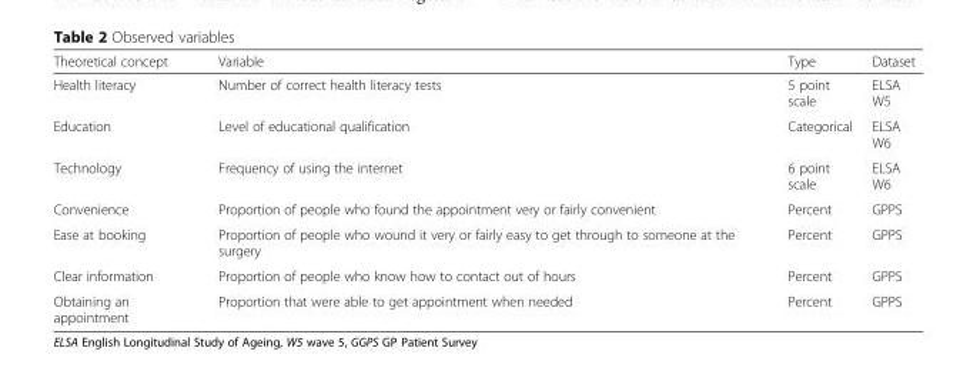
<table><thead><tr><td>Theoretical concept</td><td>Variable</td><td>Type</td><td>Dataset</td></tr></thead><tbody><tr><td>Health literacy</td><td>Number of correct health literacy tests</td><td>5 point scale</td><td>ELSA W5</td></tr><tr><td>Education</td><td>Level of educational qualification</td><td>Categorical</td><td>ELSA W6</td></tr><tr><td>Technology</td><td>Frequency of using the internet</td><td>6 point scale</td><td>ELSA W6</td></tr><tr><td>Convenience</td><td>Proportion of people who found the appointment very or fairly convenient</td><td>Percent</td><td>GPPS</td></tr><tr><td>Ease at booking</td><td>Proportion of people who wound it very or fairly easy to get through to someone at the surgery</td><td>Percent</td><td>GPPS</td></tr><tr><td>Clear information</td><td>Proportion of people who know how to contact out of hours</td><td>Percent</td><td>GPPS</td></tr><tr><td>Obtaining an appointment</td><td>Proportion that were able to get appointment when needed</td><td>Percent</td><td>GPPS</td></tr></tbody></table>